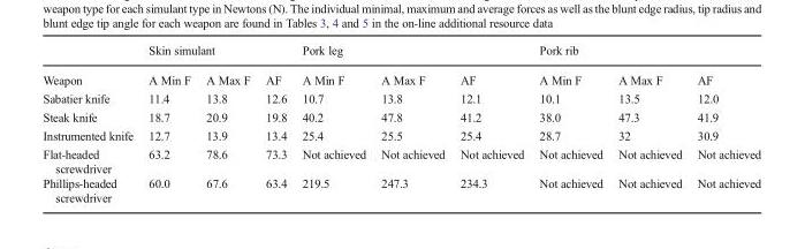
<table><thead><tr><td rowspan="2">Weapon</td><td colspan="3">Skin simulant</td><td colspan="3">Pork leg</td><td colspan="3">Pork rib</td></tr><tr><td>A Min F</td><td>A Max F</td><td>AF</td><td>A Min F</td><td>A Max F</td><td>AF</td><td>A Min F</td><td>A Max F</td><td>AF</td></tr></thead><tbody><tr><td>Sabatier knife</td><td>11.4</td><td>13.8</td><td>12.6</td><td>10.7</td><td>13.8</td><td>12.1</td><td>10.1</td><td>13.5</td><td>12.0</td></tr><tr><td>Steak knife</td><td>18.7</td><td>20.9</td><td>19.8</td><td>40.2</td><td>47.8</td><td>41.2</td><td>38.0</td><td>47.3</td><td>41.9</td></tr><tr><td>Instrumented knife</td><td>12.7</td><td>13.9</td><td>13.4</td><td>25.4</td><td>25.5</td><td>25.4</td><td>28.7</td><td>32</td><td>30.9</td></tr><tr><td>Flat-headed screwdriver</td><td>63.2</td><td>78.6</td><td>73.3</td><td>Not achieved</td><td>Not achieved</td><td>Not achieved</td><td>Not achieved</td><td>Not achieved</td><td>Not achieved</td></tr><tr><td>Phillips-headed screwdriver</td><td>60.0</td><td>67.6</td><td>63.4</td><td>219.5</td><td>247.3</td><td>234.3</td><td>Not achieved</td><td>Not achieved</td><td>Not achieved</td></tr></tbody></table>